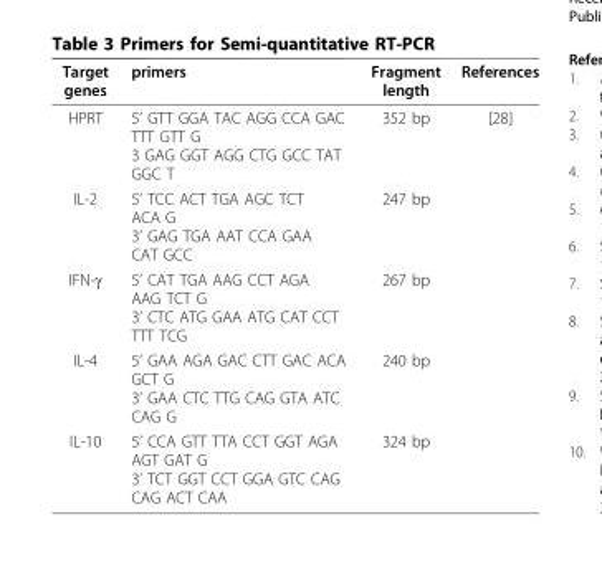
<table><thead><tr><td>Target genes</td><td>primers</td><td>Fragment length</td><td>References</td></tr></thead><tbody><tr><td>HPRT</td><td>5’ GTT GGA TAC AGG CCA GAC TTT GTT G 3 GAG GGT AGG CTG GCC TAT GGC T</td><td>352 bp</td><td>[28]</td></tr><tr><td>IL-2</td><td>5’ TCC ACT TGA AGC TCT ACA G 3’ GAG TGA AAT CCA GAA CAT GCC</td><td>247 bp</td><td></td></tr><tr><td>IFN-γ</td><td>5’ CAT TGA AAG CCT AGA AAG TCT G 3’ CTC ATG GAA ATG CAT CCT TTT TCG</td><td>267 bp</td><td></td></tr><tr><td>IL-4</td><td>5’ GAA AGA GAC CTT GAC ACA GCT G 3’ GAA CTC TTG CAG GTA ATC CAG G</td><td>240 bp</td><td></td></tr><tr><td>IL-10</td><td>5’ CCA GTT TTA CCT GGT AGA AGT GAT G 3’ TCT GGT CCT GGA GTC CAG CAG ACT CAA</td><td>324 bp</td><td></td></tr></tbody></table>